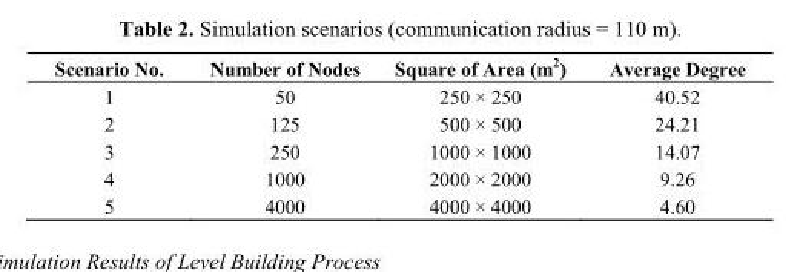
<table><thead><tr><td>Scenario No.</td><td>Number of Nodes</td><td>Square of Area (m<sup>2</sup>)</td><td>Average Degree</td></tr></thead><tbody><tr><td>1</td><td>50</td><td>250 × 250</td><td>40.52</td></tr><tr><td>2</td><td>125</td><td>500 × 500</td><td>24.21</td></tr><tr><td>3</td><td>250</td><td>1000 × 1000</td><td>14.07</td></tr><tr><td>4</td><td>1000</td><td>2000 × 2000</td><td>9.26</td></tr><tr><td>5</td><td>4000</td><td>4000 × 4000</td><td>4.60</td></tr></tbody></table>